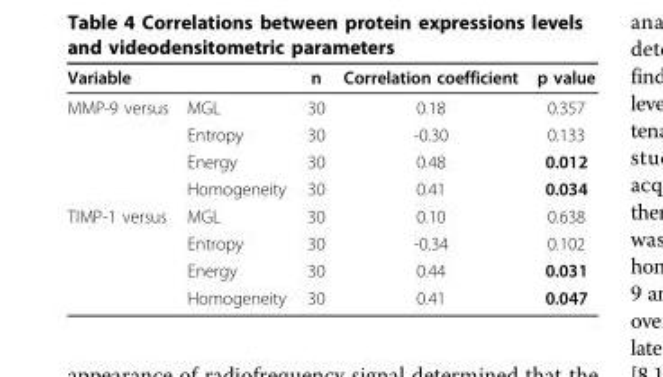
<table><thead><tr><td colspan="2">Variable</td><td rowspan="2">n 30</td><td rowspan="2">Correlation coefficient 0.18</td><td rowspan="2">p value 0.357</td></tr><tr><td>MMP-9 versus</td><td>MGL</td></tr></thead><tbody><tr><td></td><td>Entropy</td><td>30</td><td>-0.30</td><td>0.133</td></tr><tr><td></td><td>Energy</td><td>30</td><td>0.48</td><td>0.012</td></tr><tr><td></td><td>Homogeneity</td><td>30</td><td>0.41</td><td>0.034</td></tr><tr><td rowspan="4">TIMP-1 versus</td><td>MGL</td><td>30</td><td>0.10</td><td>0.638</td></tr><tr><td>Entropy</td><td>30</td><td>-0.34</td><td>0.102</td></tr><tr><td>Energy</td><td>30</td><td>0.44</td><td>0.031</td></tr><tr><td>Homogeneity</td><td>30</td><td>0.41</td><td>0.047</td></tr></tbody></table>